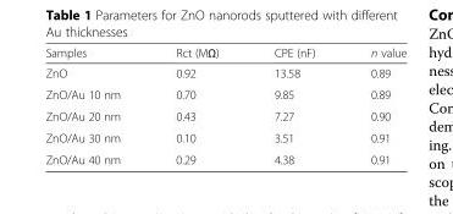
<table><thead><tr><td>Samples</td><td>Rct (MΩ)</td><td>CPE (nF)</td><td>n value</td></tr></thead><tbody><tr><td>ZnO</td><td>0.92</td><td>13.58</td><td>0.89</td></tr><tr><td>ZnO/Au 10 nm</td><td>0.70</td><td>9.85</td><td>0.89</td></tr><tr><td>ZnO/Au 20 nm</td><td>0.43</td><td>7.27</td><td>0.90</td></tr><tr><td>ZnO/Au 30 nm</td><td>0.10</td><td>3.51</td><td>0.91</td></tr><tr><td>ZnO/Au 40 nm</td><td>0.29</td><td>4.38</td><td>0.91</td></tr></tbody></table>